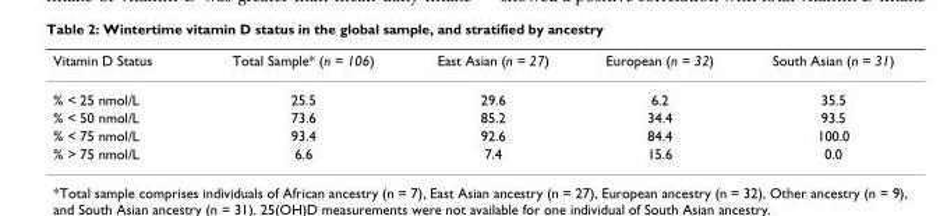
<table><thead><tr><td>Vitamin D Status</td><td>Total Sample* (n = 106)</td><td>East Asian (n = 27)</td><td>European (n = 32)</td><td>South Asian (n = 31)</td></tr></thead><tbody><tr><td>% &lt; 25 nmol/L</td><td>25.5</td><td>29.6</td><td>6.2</td><td>35.5</td></tr><tr><td>% &lt; 50 nmol/L</td><td>73.6</td><td>85.2</td><td>34.4</td><td>93.5</td></tr><tr><td>% &lt; 75 nmol/L</td><td>93.4</td><td>92.6</td><td>84.4</td><td>100.0</td></tr><tr><td>% &gt; 75 nmol/L</td><td>6.6</td><td>7.4</td><td>15.6</td><td>0.0</td></tr></tbody></table>